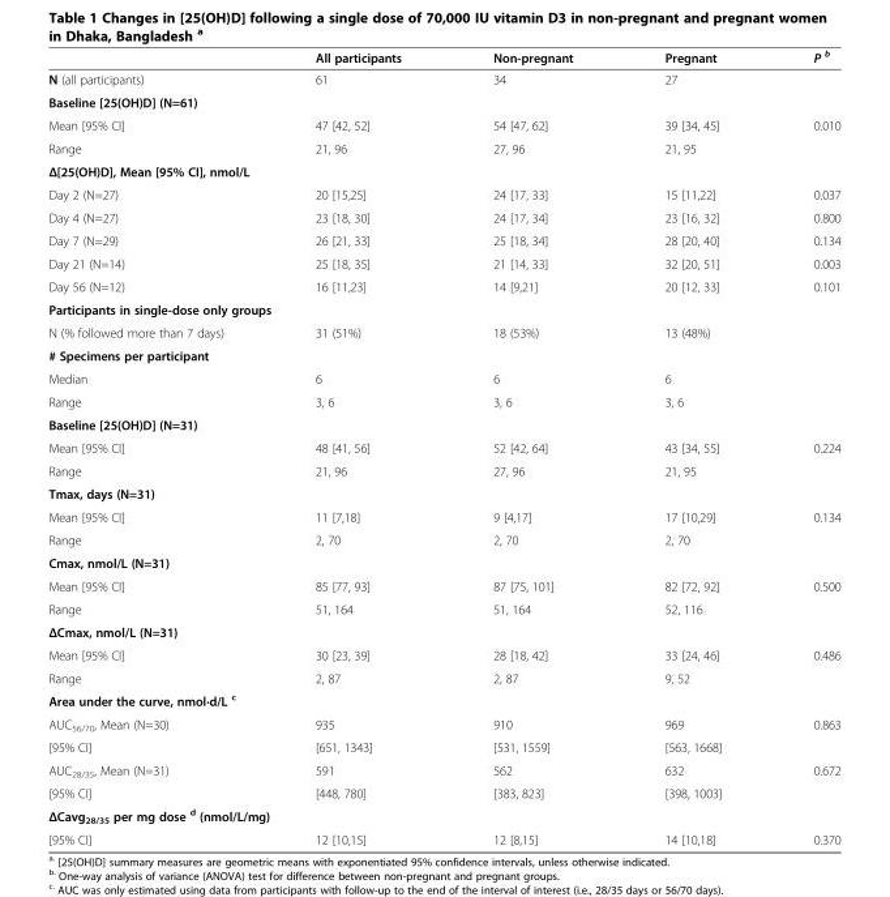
<table><thead><tr><td></td><td>All participants</td><td>Non-pregnant</td><td>Pregnant</td><td>P <sup>b</sup></td></tr></thead><tbody><tr><td>N (all participants)</td><td>61</td><td>34</td><td>27</td><td></td></tr><tr><td colspan="5">Baseline [25(OH)D] (N=61)</td></tr><tr><td>Mean [95% CI]</td><td>47 [42, 52]</td><td>54 [47, 62]</td><td>39 [34, 45]</td><td>0.010</td></tr><tr><td>Range</td><td>21, 96</td><td>27, 96</td><td>21, 95</td><td></td></tr><tr><td colspan="5">Δ[25(OH)D], Mean [95% CI], nmol/L</td></tr><tr><td>Day 2 (N=27)</td><td>20 [15,25]</td><td>24 [17, 33]</td><td>15 [11,22]</td><td>0.037</td></tr><tr><td>Day 4 (N=27)</td><td>23 [18, 30]</td><td>24 [17, 34]</td><td>23 [16, 32]</td><td>0.800</td></tr><tr><td>Day 7 (N=29)</td><td>26 [21, 33]</td><td>25 [18, 34]</td><td>28 [20, 40]</td><td>0.134</td></tr><tr><td>Day 21 (N=14)</td><td>25 [18, 35]</td><td>21 [14, 33]</td><td>32 [20, 51]</td><td>0.003</td></tr><tr><td>Day 56 (N=12)</td><td>16 [11,23]</td><td>14 [9,21]</td><td>20 [12, 33]</td><td>0.101</td></tr><tr><td colspan="5">Participants in single-dose only groups</td></tr><tr><td>N (% followed more than 7 days)</td><td>31 (51%)</td><td>18 (53%)</td><td>13 (48%)</td><td></td></tr><tr><td colspan="5"># Specimens per participant</td></tr><tr><td>Median</td><td>6</td><td>6</td><td>6</td><td></td></tr><tr><td>Range</td><td>3, 6</td><td>3, 6</td><td>3, 6</td><td></td></tr><tr><td colspan="5">Baseline [25(OH)D] (N=31)</td></tr><tr><td>Mean [95% CI]</td><td>48 [41, 56]</td><td>52 [42, 64]</td><td>43 [34, 55]</td><td>0.224</td></tr><tr><td>Range</td><td>21, 96</td><td>27, 96</td><td>21, 95</td><td></td></tr><tr><td colspan="5">Tmax, days (N=31)</td></tr><tr><td>Mean [95% CI]</td><td>11 [7,18]</td><td>9 [4,17]</td><td>17 [10,29]</td><td>0.134</td></tr><tr><td>Range</td><td>2, 70</td><td>2, 70</td><td>2, 70</td><td></td></tr><tr><td colspan="5">Cmax, nmol/L (N=31)</td></tr><tr><td>Mean [95% CI]</td><td>85 [77, 93]</td><td>87 [75, 101]</td><td>82 [72, 92]</td><td>0.500</td></tr><tr><td>Range</td><td>51, 164</td><td>51, 164</td><td>52, 116</td><td></td></tr><tr><td colspan="5">ΔCmax, nmol/L (N=31)</td></tr><tr><td>Mean [95% CI]</td><td>30 [23, 39]</td><td>28 [18, 42]</td><td>33 [24, 46]</td><td>0.486</td></tr><tr><td>Range</td><td>2, 87</td><td>2, 87</td><td>9, 52</td><td></td></tr><tr><td colspan="5">Area under the curve, nmol·d/L <sup>c</sup></td></tr><tr><td>AUC<sub>56/70</sub>, Mean (N=30)</td><td>935</td><td>910</td><td>969</td><td rowspan="2">0.863</td></tr><tr><td>[95% CI]</td><td>[651, 1343]</td><td>[531, 1559]</td><td>[563, 1668]</td></tr><tr><td>AUC<sub>28/35</sub>, Mean (N=31)</td><td>591</td><td>562</td><td>632</td><td rowspan="2">0.672</td></tr><tr><td>[95% CI]</td><td>[448, 780]</td><td>[383, 823]</td><td>[398, 1003]</td></tr><tr><td colspan="5">ΔCavg<sub>28/35</sub> per mg dose <sup>d</sup> (nmol/L/mg)</td></tr><tr><td>[95% CI]</td><td>12 [10,15]</td><td>12 [8,15]</td><td>14 [10,18]</td><td>0.370</td></tr></tbody></table>